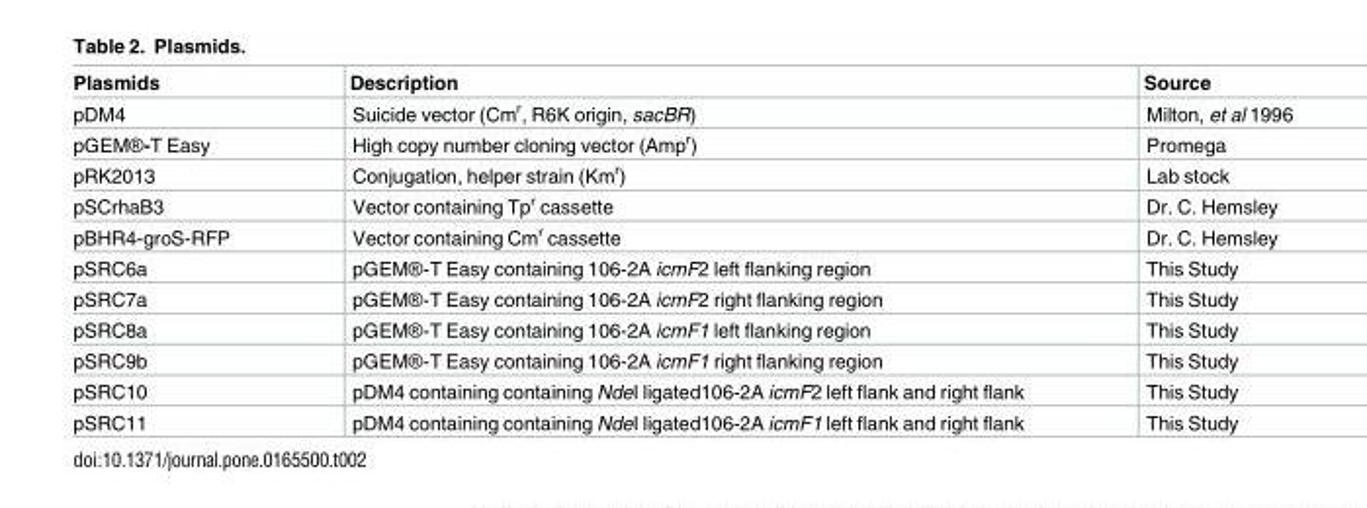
<table><thead><tr><td>Plasmids</td><td>Description</td><td>Source</td></tr></thead><tbody><tr><td>pDM4</td><td>Suicide vector (Cm<sup>r</sup>, R6K origin, sacBR)</td><td>Milton, et al 1996</td></tr><tr><td>pGEM®-T Easy</td><td>High copy number cloning vector (Amp<sup>r</sup>)</td><td>Promega</td></tr><tr><td>pRK2013</td><td>Conjugation, helper strain (Km<sup>r</sup>)</td><td>Lab stock</td></tr><tr><td>pSCrhaB3</td><td>Vector containing Tp<sup>r</sup> cassette</td><td>Dr. C. Hemsley</td></tr><tr><td>pBHR4-groS-RFP</td><td>Vector containing Cm<sup>r</sup> cassette</td><td>Dr. C. Hemsley</td></tr><tr><td>pSRC6a</td><td>pGEM®-T Easy containing 106-2A icmF2 left flanking region</td><td>This Study</td></tr><tr><td>pSRC7a</td><td>pGEM®-T Easy containing 106-2A icmF2 right flanking region</td><td>This Study</td></tr><tr><td>pSRC8a</td><td>pGEM®-T Easy containing 106-2A icmF1 left flanking region</td><td>This Study</td></tr><tr><td>pSRC9b</td><td>pGEM®-T Easy containing 106-2A icmF1 right flanking region</td><td>This Study</td></tr><tr><td>pSRC10</td><td>pDM4 containing containing NdeI ligated106-2A icmF2 left flank and right flank</td><td>This Study</td></tr><tr><td>pSRC11</td><td>pDM4 containing containing NdeI ligated106-2A icmF1 left flank and right flank</td><td>This Study</td></tr></tbody></table>